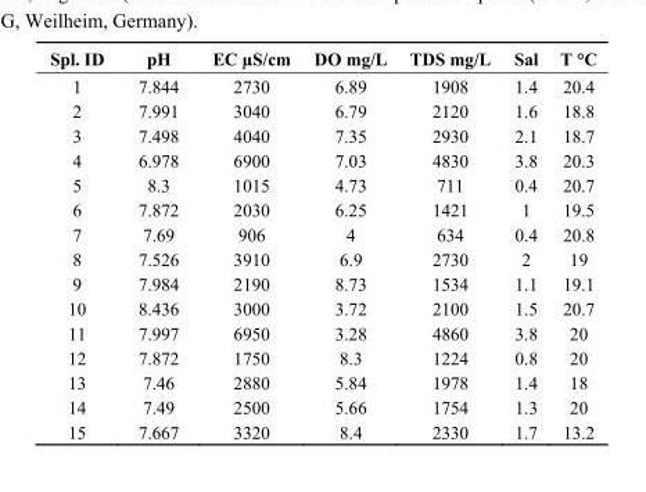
<table><thead><tr><td>Spl. ID</td><td>pH</td><td>EC µS/cm</td><td>DO mg/L</td><td>TDS mg/L</td><td>Sal</td><td>T °C</td></tr></thead><tbody><tr><td>1</td><td>7.844</td><td>2730</td><td>6.89</td><td>1908</td><td>1.4</td><td>20.4</td></tr><tr><td>2</td><td>7.991</td><td>3040</td><td>6.79</td><td>2120</td><td>1.6</td><td>18.8</td></tr><tr><td>3</td><td>7.498</td><td>4040</td><td>7.35</td><td>2930</td><td>2.1</td><td>18.7</td></tr><tr><td>4</td><td>6.978</td><td>6900</td><td>7.03</td><td>4830</td><td>3.8</td><td>20.3</td></tr><tr><td>5</td><td>8.3</td><td>1015</td><td>4.73</td><td>711</td><td>0.4</td><td>20.7</td></tr><tr><td>6</td><td>7.872</td><td>2030</td><td>6.25</td><td>1421</td><td>1</td><td>19.5</td></tr><tr><td>7</td><td>7.69</td><td>906</td><td>4</td><td>634</td><td>0.4</td><td>20.8</td></tr><tr><td>8</td><td>7.526</td><td>3910</td><td>6.9</td><td>2730</td><td>2</td><td>19</td></tr><tr><td>9</td><td>7.984</td><td>2190</td><td>8.73</td><td>1534</td><td>1.1</td><td>19.1</td></tr><tr><td>10</td><td>8.436</td><td>3000</td><td>3.72</td><td>2100</td><td>1.5</td><td>20.7</td></tr><tr><td>11</td><td>7.997</td><td>6950</td><td>3.28</td><td>4860</td><td>3.8</td><td>20</td></tr><tr><td>12</td><td>7.872</td><td>1750</td><td>8.3</td><td>1224</td><td>0.8</td><td>20</td></tr><tr><td>13</td><td>7.46</td><td>2880</td><td>5.84</td><td>1978</td><td>1.4</td><td>18</td></tr><tr><td>14</td><td>7.49</td><td>2500</td><td>5.66</td><td>1754</td><td>1.3</td><td>20</td></tr><tr><td>15</td><td>7.667</td><td>3320</td><td>8.4</td><td>2330</td><td>1.7</td><td>13.2</td></tr></tbody></table>